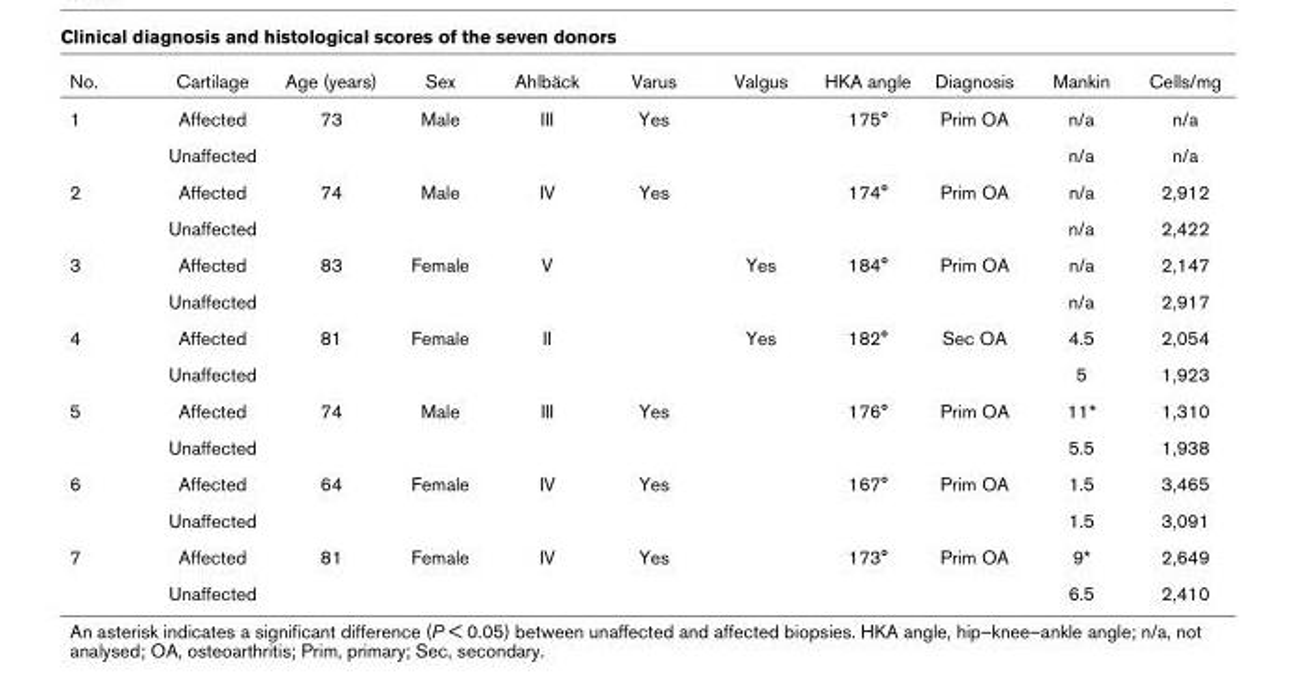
<table><thead><tr><td>No.</td><td>Cartilage</td><td>Age (years)</td><td>Sex</td><td>Ahlbäck</td><td>Varus</td><td>Valgus</td><td>HKA angle</td><td>Diagnosis</td><td>Mankin</td><td>Cells/mg</td></tr></thead><tbody><tr><td rowspan="2">1</td><td>Affected</td><td>73</td><td>Male</td><td>III</td><td>Yes</td><td></td><td>175°</td><td>Prim OA</td><td>n/a</td><td>n/a</td></tr><tr><td>Unaffected</td><td></td><td></td><td></td><td></td><td></td><td></td><td></td><td>n/a</td><td>n/a</td></tr><tr><td rowspan="2">2</td><td>Affected</td><td>74</td><td>Male</td><td>IV</td><td>Yes</td><td></td><td>174°</td><td>Prim OA</td><td>n/a</td><td>2,912</td></tr><tr><td>Unaffected</td><td></td><td></td><td></td><td></td><td></td><td></td><td></td><td>n/a</td><td>2,422</td></tr><tr><td rowspan="2">3</td><td>Affected</td><td>83</td><td>Female</td><td>V</td><td></td><td>Yes</td><td>184°</td><td>Prim OA</td><td>n/a</td><td>2,147</td></tr><tr><td>Unaffected</td><td></td><td></td><td></td><td></td><td></td><td></td><td></td><td>n/a</td><td>2,917</td></tr><tr><td rowspan="2">4</td><td>Affected</td><td>81</td><td>Female</td><td>II</td><td></td><td>Yes</td><td>182°</td><td>Sec OA</td><td>4.5</td><td>2,054</td></tr><tr><td>Unaffected</td><td></td><td></td><td></td><td></td><td></td><td></td><td></td><td>5</td><td>1,923</td></tr><tr><td rowspan="2">5</td><td>Affected</td><td>74</td><td>Male</td><td>III</td><td>Yes</td><td></td><td>176°</td><td>Prim OA</td><td>11*</td><td>1,310</td></tr><tr><td>Unaffected</td><td></td><td></td><td></td><td></td><td></td><td></td><td></td><td>5.5</td><td>1,938</td></tr><tr><td rowspan="2">6</td><td>Affected</td><td>64</td><td>Female</td><td>IV</td><td>Yes</td><td></td><td>167°</td><td>Prim OA</td><td>1.5</td><td>3,465</td></tr><tr><td>Unaffected</td><td></td><td></td><td></td><td></td><td></td><td></td><td></td><td>1.5</td><td>3,091</td></tr><tr><td rowspan="2">7</td><td>Affected</td><td>81</td><td>Female</td><td>IV</td><td>Yes</td><td></td><td>173°</td><td>Prim OA</td><td>9*</td><td>2,649</td></tr><tr><td>Unaffected</td><td></td><td></td><td></td><td></td><td></td><td></td><td></td><td>6.5</td><td>2,410</td></tr></tbody></table>